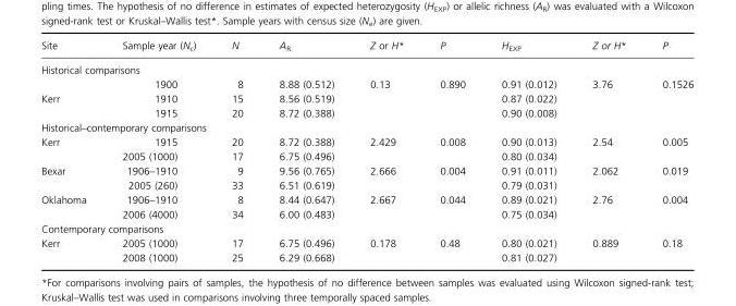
<table><thead><tr><td>Site</td><td>Sample year (N<sub>c</sub>)</td><td>N</td><td>A<sub>R</sub></td><td>Z or H*</td><td>P</td><td>H<sub>EXP</sub></td><td>Z or H*</td><td>P</td></tr></thead><tbody><tr><td colspan="9">Historical comparisons</td></tr><tr><td></td><td>1900</td><td>8</td><td>8.88 (0.512)</td><td>0.13</td><td>0.890</td><td>0.91 (0.012)</td><td>3.76</td><td>0.1526</td></tr><tr><td rowspan="2">Kerr</td><td>1910</td><td>15</td><td>8.56 (0.519)</td><td></td><td></td><td>0.87 (0.022)</td><td></td><td></td></tr><tr><td>1915</td><td>20</td><td>8.72 (0.388)</td><td></td><td></td><td>0.90 (0.008)</td><td></td><td></td></tr><tr><td colspan="9">Historical–contemporary comparisons</td></tr><tr><td rowspan="2">Kerr</td><td>1915</td><td>20</td><td>8.72 (0.388)</td><td>2.429</td><td>0.008</td><td>0.90 (0.013)</td><td>2.54</td><td>0.005</td></tr><tr><td>2005 (1000)</td><td>17</td><td>6.75 (0.496)</td><td></td><td></td><td>0.80 (0.034)</td><td></td><td></td></tr><tr><td rowspan="2">Bexar</td><td>1906–1910</td><td>9</td><td>9.56 (0.765)</td><td>2.666</td><td>0.004</td><td>0.91 (0.011)</td><td>2.062</td><td>0.019</td></tr><tr><td>2005 (260)</td><td>33</td><td>6.51 (0.619)</td><td></td><td></td><td>0.79 (0.031)</td><td></td><td></td></tr><tr><td rowspan="2">Oklahoma</td><td>1906–1910</td><td>8</td><td>8.44 (0.647)</td><td>2.667</td><td>0.044</td><td>0.89 (0.021)</td><td>2.76</td><td>0.004</td></tr><tr><td>2006 (4000)</td><td>34</td><td>6.00 (0.483)</td><td></td><td></td><td>0.75 (0.034)</td><td></td><td></td></tr><tr><td colspan="9">Contemporary comparisons</td></tr><tr><td rowspan="2">Kerr</td><td>2005 (1000)</td><td>17</td><td>6.75 (0.496)</td><td>0.178</td><td>0.48</td><td>0.80 (0.021)</td><td>0.889</td><td>0.18</td></tr><tr><td>2008 (1000)</td><td>25</td><td>6.29 (0.668)</td><td></td><td></td><td>0.81 (0.027)</td><td></td><td></td></tr></tbody></table>